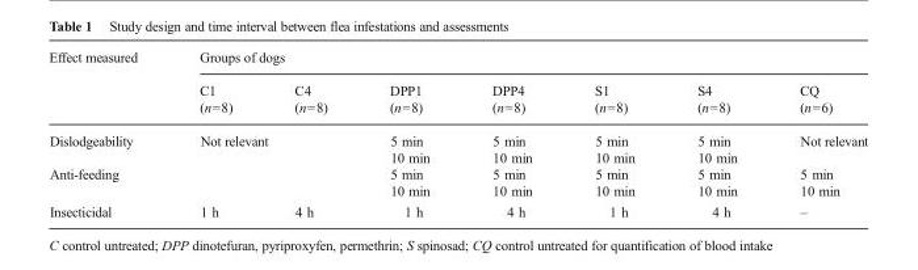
<table><thead><tr><td rowspan="2">Effect measured</td><td colspan="7">Groups of dogs</td></tr><tr><td>C1 (n=8)</td><td>C4 (n=8)</td><td>DPP1 (n=8)</td><td>DPP4 (n=8)</td><td>S1 (n=8)</td><td>S4 (n=8)</td><td>CQ (n=6)</td></tr></thead><tbody><tr><td>Dislodgeability</td><td rowspan="2" colspan="2">Not relevant</td><td>5 min 10 min</td><td>5 min 10 min</td><td>5 min 10 min</td><td>5 min 10 min</td><td>Not relevant</td></tr><tr><td>Anti-feeding</td><td>5 min 10 min</td><td>5 min 10 min</td><td>5 min 10 min</td><td>5 min 10 min</td><td>5 min 10 min</td></tr><tr><td>Insecticidal</td><td>1 h</td><td>4 h</td><td>1 h</td><td>4 h</td><td>1 h</td><td>4 h</td><td>–</td></tr></tbody></table>